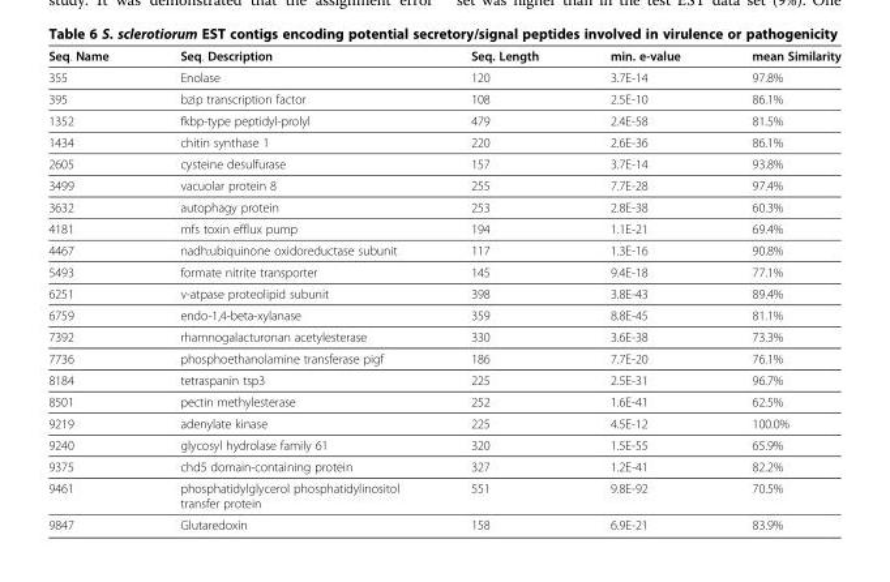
<table><thead><tr><td>Seq. Name</td><td>Seq. Description</td><td>Seq. Length</td><td>min. e-value</td><td>mean Similarity</td></tr></thead><tbody><tr><td>355</td><td>Enolase</td><td>120</td><td>3.7E-14</td><td>97.8%</td></tr><tr><td>395</td><td>bzip transcription factor</td><td>108</td><td>2.5E-10</td><td>86.1%</td></tr><tr><td>1352</td><td>fkbp-type peptidyl-prolyl</td><td>479</td><td>2.4E-58</td><td>81.5%</td></tr><tr><td>1434</td><td>chitin synthase 1</td><td>220</td><td>2.6E-36</td><td>86.1%</td></tr><tr><td>2605</td><td>cysteine desulfurase</td><td>157</td><td>3.7E-14</td><td>93.8%</td></tr><tr><td>3499</td><td>vacuolar protein 8</td><td>255</td><td>7.7E-28</td><td>97.4%</td></tr><tr><td>3632</td><td>autophagy protein</td><td>253</td><td>2.8E-38</td><td>60.3%</td></tr><tr><td>4181</td><td>mfs toxin efflux pump</td><td>194</td><td>1.1E-21</td><td>69.4%</td></tr><tr><td>4467</td><td>nadh:ubiquinone oxidoreductase subunit</td><td>117</td><td>1.3E-16</td><td>90.8%</td></tr><tr><td>5493</td><td>formate nitrite transporter</td><td>145</td><td>9.4E-18</td><td>77.1%</td></tr><tr><td>6251</td><td>v-atpase proteolipid subunit</td><td>398</td><td>3.8E-43</td><td>89.4%</td></tr><tr><td>6759</td><td>endo-1,4-beta-xylanase</td><td>359</td><td>8.8E-45</td><td>81.1%</td></tr><tr><td>7392</td><td>rhamnogalacturonan acetylesterase</td><td>330</td><td>3.6E-38</td><td>73.3%</td></tr><tr><td>7736</td><td>phosphoethanolamine transferase pigf</td><td>186</td><td>7.7E-20</td><td>76.1%</td></tr><tr><td>8184</td><td>tetraspanin tsp3</td><td>225</td><td>2.5E-31</td><td>96.7%</td></tr><tr><td>8501</td><td>pectin methylesterase</td><td>252</td><td>1.6E-41</td><td>62.5%</td></tr><tr><td>9219</td><td>adenylate kinase</td><td>225</td><td>4.5E-12</td><td>100.0%</td></tr><tr><td>9240</td><td>glycosyl hydrolase family 61</td><td>320</td><td>1.5E-55</td><td>65.9%</td></tr><tr><td>9375</td><td>chd5 domain-containing protein</td><td>327</td><td>1.2E-41</td><td>82.2%</td></tr><tr><td>9461</td><td>phosphatidylglycerol phosphatidylinositol transfer protein</td><td>551</td><td>9.8E-92</td><td>70.5%</td></tr><tr><td>9847</td><td>Glutaredoxin</td><td>158</td><td>6.9E-21</td><td>83.9%</td></tr></tbody></table>